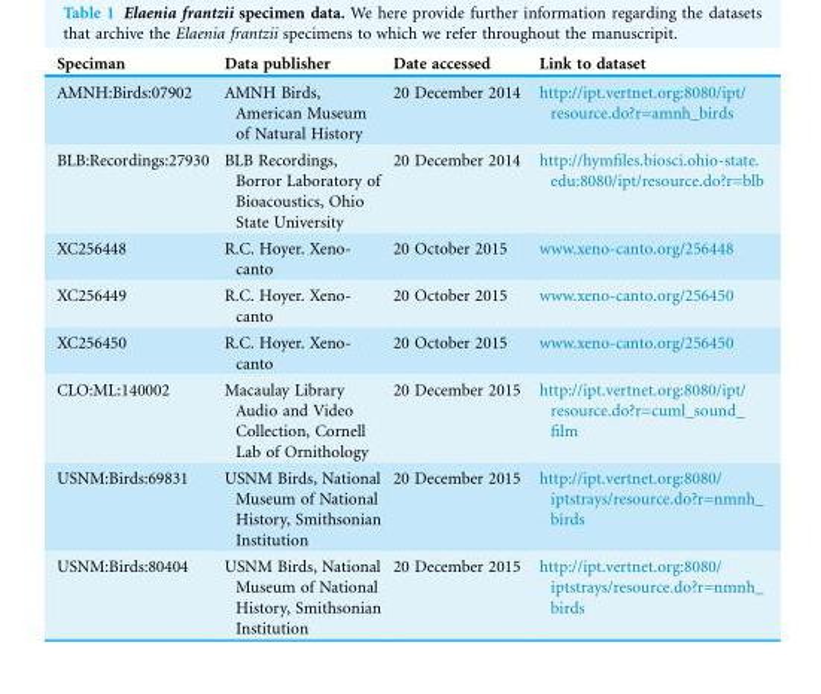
<table><thead><tr><td>Speciman</td><td>Data publisher</td><td>Date accessed</td><td>Link to dataset</td></tr></thead><tbody><tr><td>AMNH:Birds:07902</td><td>AMNH Birds, American Museum of Natural History</td><td>20 December 2014</td><td>http://ipt.vertnet.org:8080/ipt/ resource.do?r=amnh_birds</td></tr><tr><td>BLB:Recordings:27930</td><td>BLB Recordings, Borror Laboratory of Bioacoustics, Ohio State University</td><td>20 December 2014</td><td>http://hymfiles.biosci.ohio-state. edu:8080/ipt/resource.do?r=blb</td></tr><tr><td>XC256448</td><td>R.C. Hoyer. Xeno- canto</td><td>20 October 2015</td><td>www.xeno-canto.org/256448</td></tr><tr><td>XC256449</td><td>R.C. Hoyer. Xeno- canto</td><td>20 October 2015</td><td>www.xeno-canto.org/256450</td></tr><tr><td>XC256450</td><td>R.C. Hoyer. Xeno- canto</td><td>20 October 2015</td><td>www.xeno-canto.org/256450</td></tr><tr><td>CLO:ML:140002</td><td>Macaulay Library Audio and Video Collection, Cornell Lab of Ornithology</td><td>20 December 2015</td><td>http://ipt.vertnet.org:8080/ipt/ resource.do?r=cuml_sound_ film</td></tr><tr><td>USNM:Birds:69831</td><td>USNM Birds, National Museum of National History, Smithsonian Institution</td><td>20 December 2015</td><td>http://ipt.vertnet.org:8080/ iptstrays/resource.do?r=nmnh_ birds</td></tr><tr><td>USNM:Birds:80404</td><td>USNM Birds, National Museum of National History, Smithsonian Institution</td><td>20 December 2015</td><td>http://ipt.vertnet.org:8080/ iptstrays/resource.do?r=nmnh_ birds</td></tr></tbody></table>